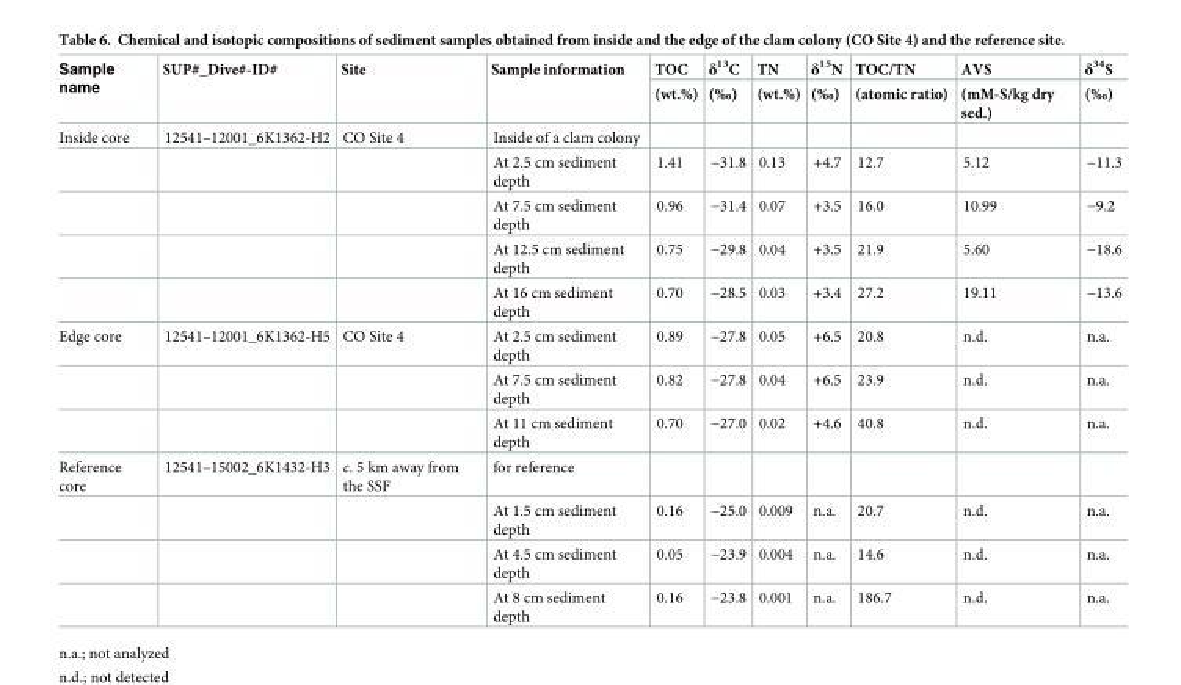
<table><thead><tr><td rowspan="2">Sample name</td><td rowspan="2">SUP#_Dive#-ID#</td><td rowspan="2">Site</td><td rowspan="2">Sample information</td><td rowspan="2">TOC (wt.%)</td><td rowspan="2">δ<sup>13</sup>C (‰)</td><td rowspan="2">TN (wt.%)</td><td rowspan="2">δ<sup>15</sup>N (‰)</td><td rowspan="2">TOC/TN (atomic ratio)</td><td rowspan="2">AVS (mM-S/kg dry sed.)</td><td rowspan="2">δ<sup>34</sup>S (‰)</td></tr><tr></tr></thead><tbody><tr><td rowspan="5">Inside core</td><td>12541–12001_6K1362-H2</td><td>CO Site 4</td><td>Inside of a clam colony</td><td></td><td></td><td></td><td></td><td></td><td></td><td></td></tr><tr><td></td><td></td><td>At 2.5 cm sediment depth</td><td>1.41</td><td>−31.8</td><td>0.13</td><td>+4.7</td><td>12.7</td><td>5.12</td><td>−11.3</td></tr><tr><td></td><td></td><td>At 7.5 cm sediment depth</td><td>0.96</td><td>−31.4</td><td>0.07</td><td>+3.5</td><td>16.0</td><td>10.99</td><td>−9.2</td></tr><tr><td></td><td></td><td>At 12.5 cm sediment depth</td><td>0.75</td><td>−29.8</td><td>0.04</td><td>+3.5</td><td>21.9</td><td>5.60</td><td>−18.6</td></tr><tr><td></td><td></td><td>At 16 cm sediment depth</td><td>0.70</td><td>−28.5</td><td>0.03</td><td>+3.4</td><td>27.2</td><td>19.11</td><td>−13.6</td></tr><tr><td rowspan="3">Edge core</td><td>12541–12001_6K1362-H5</td><td>CO Site 4</td><td>At 2.5 cm sediment depth</td><td>0.89</td><td>−27.8</td><td>0.05</td><td>+6.5</td><td>20.8</td><td>n.d.</td><td>n.a.</td></tr><tr><td></td><td></td><td>At 7.5 cm sediment depth</td><td>0.82</td><td>−27.8</td><td>0.04</td><td>+6.5</td><td>23.9</td><td>n.d.</td><td>n.a.</td></tr><tr><td></td><td></td><td>At 11 cm sediment depth</td><td>0.70</td><td>−27.0</td><td>0.02</td><td>+4.6</td><td>40.8</td><td>n.d.</td><td>n.a.</td></tr><tr><td rowspan="4">Reference core</td><td>12541–15002_6K1432-H3</td><td>c. 5 km away from the SSF</td><td>for reference</td><td></td><td></td><td></td><td></td><td></td><td></td><td></td></tr><tr><td></td><td></td><td>At 1.5 cm sediment depth</td><td>0.16</td><td>−25.0</td><td>0.009</td><td>n.a.</td><td>20.7</td><td>n.d.</td><td>n.a.</td></tr><tr><td></td><td></td><td>At 4.5 cm sediment depth</td><td>0.05</td><td>−23.9</td><td>0.004</td><td>n.a.</td><td>14.6</td><td>n.d.</td><td>n.a.</td></tr><tr><td></td><td></td><td>At 8 cm sediment depth</td><td>0.16</td><td>−23.8</td><td>0.001</td><td>n.a.</td><td>186.7</td><td>n.d.</td><td>n.a.</td></tr></tbody></table>